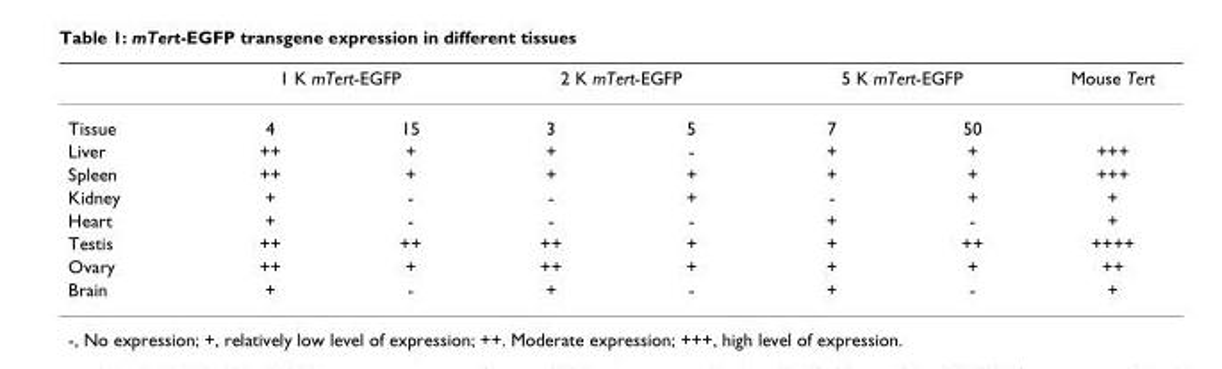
<table><thead><tr><td rowspan="2">Tissue</td><td colspan="2">1 K mTert-EGFP</td><td colspan="2">2 K mTert-EGFP</td><td colspan="2">5 K mTert-EGFP</td><td rowspan="2">Mouse Tert</td></tr><tr><td>4</td><td>15</td><td>3</td><td>5</td><td>7</td><td>50</td></tr></thead><tbody><tr><td>Liver</td><td>++</td><td>+</td><td>+</td><td>-</td><td>+</td><td>+</td><td>+++</td></tr><tr><td>Spleen</td><td>++</td><td>+</td><td>+</td><td>+</td><td>+</td><td>+</td><td>+++</td></tr><tr><td>Kidney</td><td>+</td><td>-</td><td>-</td><td>+</td><td>-</td><td>+</td><td>+</td></tr><tr><td>Heart</td><td>+</td><td>-</td><td>-</td><td>-</td><td>+</td><td>-</td><td>+</td></tr><tr><td>Testis</td><td>++</td><td>++</td><td>++</td><td>+</td><td>+</td><td>++</td><td>++++</td></tr><tr><td>Ovary</td><td>++</td><td>+</td><td>++</td><td>+</td><td>+</td><td>+</td><td>++</td></tr><tr><td>Brain</td><td>+</td><td>-</td><td>+</td><td>-</td><td>+</td><td>-</td><td>+</td></tr></tbody></table>